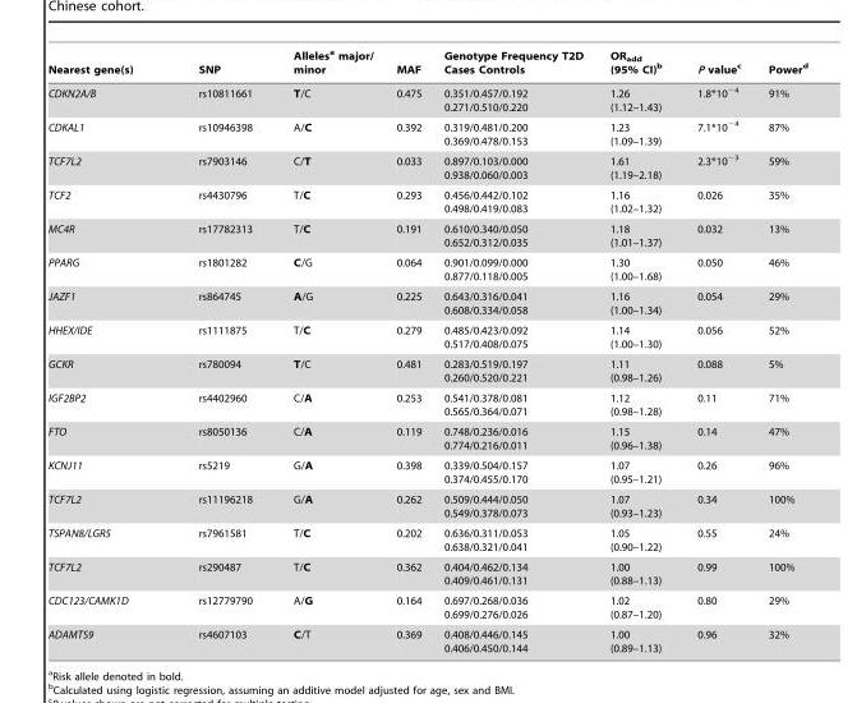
<table><thead><tr><td>Nearest gene(s)</td><td>SNP</td><td>Alleles<sup>a</sup> major/ minor</td><td>MAF</td><td>Genotype Frequency T2D Cases Controls</td><td>OR<sub>add</sub> (95% CI)<sup>b</sup></td><td>P value<sup>c</sup></td><td>Power<sup>d</sup></td></tr></thead><tbody><tr><td>CDKN2A/B</td><td>rs10811661</td><td>T/C</td><td>0.475</td><td>0.351/0.457/0.192 0.271/0.510/0.220</td><td>1.26 (1.12–1.43)</td><td>1.8*10<sup>−4</sup></td><td>91%</td></tr><tr><td>CDKAL1</td><td>rs10946398</td><td>A/C</td><td>0.392</td><td>0.319/0.481/0.200 0.369/0.478/0.153</td><td>1.23 (1.09–1.39)</td><td>7.1*10<sup>−4</sup></td><td>87%</td></tr><tr><td>TCF7L2</td><td>rs7903146</td><td>C/T</td><td>0.033</td><td>0.897/0.103/0.000 0.938/0.060/0.003</td><td>1.61 (1.19–2.18)</td><td>2.3*10<sup>−3</sup></td><td>59%</td></tr><tr><td>TCF2</td><td>rs4430796</td><td>T/C</td><td>0.293</td><td>0.456/0.442/0.102 0.498/0.419/0.083</td><td>1.16 (1.02–1.32)</td><td>0.026</td><td>35%</td></tr><tr><td>MC4R</td><td>rs17782313</td><td>T/C</td><td>0.191</td><td>0.610/0.340/0.050 0.652/0.312/0.035</td><td>1.18 (1.01–1.37)</td><td>0.032</td><td>13%</td></tr><tr><td>PPARG</td><td>rs1801282</td><td>C/G</td><td>0.064</td><td>0.901/0.099/0.000 0.877/0.118/0.005</td><td>1.30 (1.00–1.68)</td><td>0.050</td><td>46%</td></tr><tr><td>JAZF1</td><td>rs864745</td><td>A/G</td><td>0.225</td><td>0.643/0.316/0.041 0.608/0.334/0.058</td><td>1.16 (1.00–1.34)</td><td>0.054</td><td>29%</td></tr><tr><td>HHEX/IDE</td><td>rs1111875</td><td>T/C</td><td>0.279</td><td>0.485/0.423/0.092 0.517/0.408/0.075</td><td>1.14 (1.00–1.30)</td><td>0.056</td><td>52%</td></tr><tr><td>GCKR</td><td>rs780094</td><td>T/C</td><td>0.481</td><td>0.283/0.519/0.197 0.260/0.520/0.221</td><td>1.11 (0.98–1.26)</td><td>0.088</td><td>5%</td></tr><tr><td>IGF2BP2</td><td>rs4402960</td><td>C/A</td><td>0.253</td><td>0.541/0.378/0.081 0.565/0.364/0.071</td><td>1.12 (0.98–1.28)</td><td>0.11</td><td>71%</td></tr><tr><td>FTO</td><td>rs8050136</td><td>C/A</td><td>0.119</td><td>0.748/0.236/0.016 0.774/0.216/0.011</td><td>1.15 (0.96–1.38)</td><td>0.14</td><td>47%</td></tr><tr><td>KCNJ11</td><td>rs5219</td><td>G/A</td><td>0.398</td><td>0.339/0.504/0.157 0.374/0.455/0.170</td><td>1.07 (0.95–1.21)</td><td>0.26</td><td>96%</td></tr><tr><td>TCF7L2</td><td>rs11196218</td><td>G/A</td><td>0.262</td><td>0.509/0.444/0.050 0.549/0.378/0.073</td><td>1.07 (0.93–1.23)</td><td>0.34</td><td>100%</td></tr><tr><td>TSPAN8/LGR5</td><td>rs7961581</td><td>T/C</td><td>0.202</td><td>0.636/0.311/0.053 0.638/0.321/0.041</td><td>1.05 (0.90–1.22)</td><td>0.55</td><td>24%</td></tr><tr><td>TCF7L2</td><td>rs290487</td><td>T/C</td><td>0.362</td><td>0.404/0.462/0.134 0.409/0.461/0.131</td><td>1.00 (0.88–1.13)</td><td>0.99</td><td>100%</td></tr><tr><td>CDC123/CAMK1D</td><td>rs12779790</td><td>A/G</td><td>0.164</td><td>0.697/0.268/0.036 0.699/0.276/0.026</td><td>1.02 (0.87–1.20)</td><td>0.80</td><td>29%</td></tr><tr><td>ADAMTS9</td><td>rs4607103</td><td>C/T</td><td>0.369</td><td>0.408/0.446/0.145 0.406/0.450/0.144</td><td>1.00 (0.89–1.13)</td><td>0.96</td><td>32%</td></tr></tbody></table>